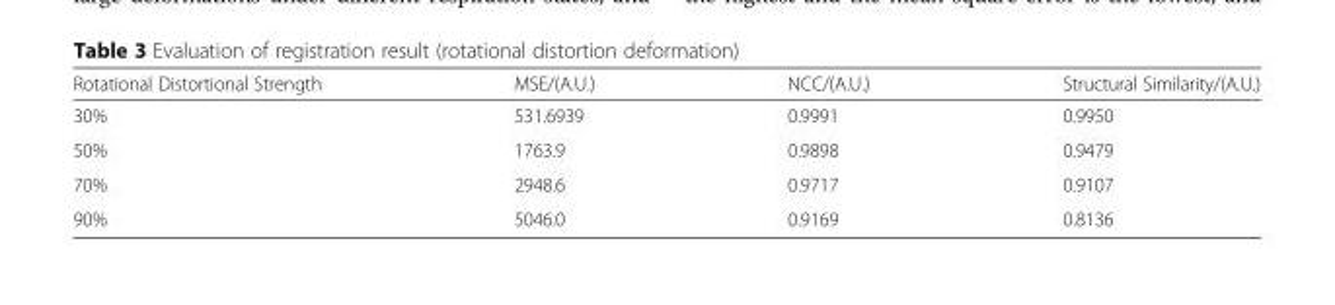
<table><thead><tr><td>Rotational Distortional Strength</td><td>MSE/(A.U.)</td><td>NCC/(A.U.)</td><td>Structural Similarity/(A.U.)</td></tr></thead><tbody><tr><td>30%</td><td>531.6939</td><td>0.9991</td><td>0.9950</td></tr><tr><td>50%</td><td>1763.9</td><td>0.9898</td><td>0.9479</td></tr><tr><td>70%</td><td>2948.6</td><td>0.9717</td><td>0.9107</td></tr><tr><td>90%</td><td>5046.0</td><td>0.9169</td><td>0.8136</td></tr></tbody></table>